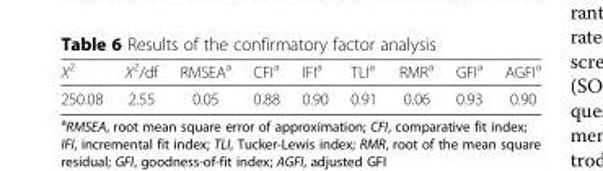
<table><thead><tr><td>Χ<sup>2</sup></td><td>Χ<sup>2</sup>/df</td><td>RMSEA<sup>a</sup></td><td>CFI<sup>a</sup></td><td>IFI<sup>a</sup></td><td>TLI<sup>a</sup></td><td>RMR<sup>a</sup></td><td>GFI<sup>a</sup></td><td>AGFI<sup>a</sup></td></tr></thead><tbody><tr><td>250.08</td><td>2.55</td><td>0.05</td><td>0.88</td><td>0.90</td><td>0.91</td><td>0.06</td><td>0.93</td><td>0.90</td></tr></tbody></table>